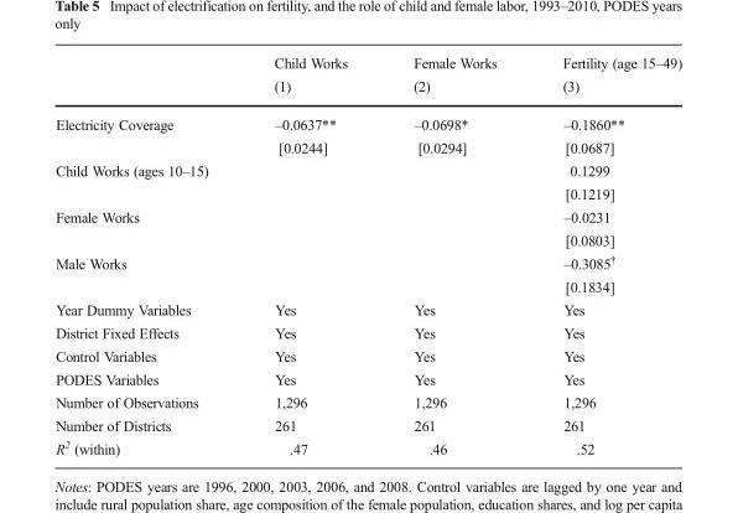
<table><thead><tr><td rowspan="2"></td><td rowspan="2">Child Works (1)</td><td rowspan="2">Female Works (2)</td><td rowspan="2">Fertility (age 15–49) (3)</td></tr><tr></tr></thead><tbody><tr><td rowspan="2">Electricity Coverage</td><td>–0.0637**</td><td>–0.0698*</td><td>–0.1860**</td></tr><tr><td>[0.0244]</td><td>[0.0294]</td><td>[0.0687]</td></tr><tr><td rowspan="2">Child Works (ages 10–15)</td><td></td><td></td><td>0.1299</td></tr><tr><td></td><td></td><td>[0.1219]</td></tr><tr><td rowspan="2">Female Works</td><td></td><td></td><td>–0.0231</td></tr><tr><td></td><td></td><td>[0.0803]</td></tr><tr><td rowspan="2">Male Works</td><td></td><td></td><td>–0.3085<sup>†</sup></td></tr><tr><td></td><td></td><td>[0.1834]</td></tr><tr><td>Year Dummy Variables</td><td>Yes</td><td>Yes</td><td>Yes</td></tr><tr><td>District Fixed Effects</td><td>Yes</td><td>Yes</td><td>Yes</td></tr><tr><td>Control Variables</td><td>Yes</td><td>Yes</td><td>Yes</td></tr><tr><td>PODES Variables</td><td>Yes</td><td>Yes</td><td>Yes</td></tr><tr><td>Number of Observations</td><td>1,296</td><td>1,296</td><td>1,296</td></tr><tr><td>Number of Districts</td><td>261</td><td>261</td><td>261</td></tr><tr><td>R<sup>2</sup> (within)</td><td>.47</td><td>.46</td><td>.52</td></tr></tbody></table>